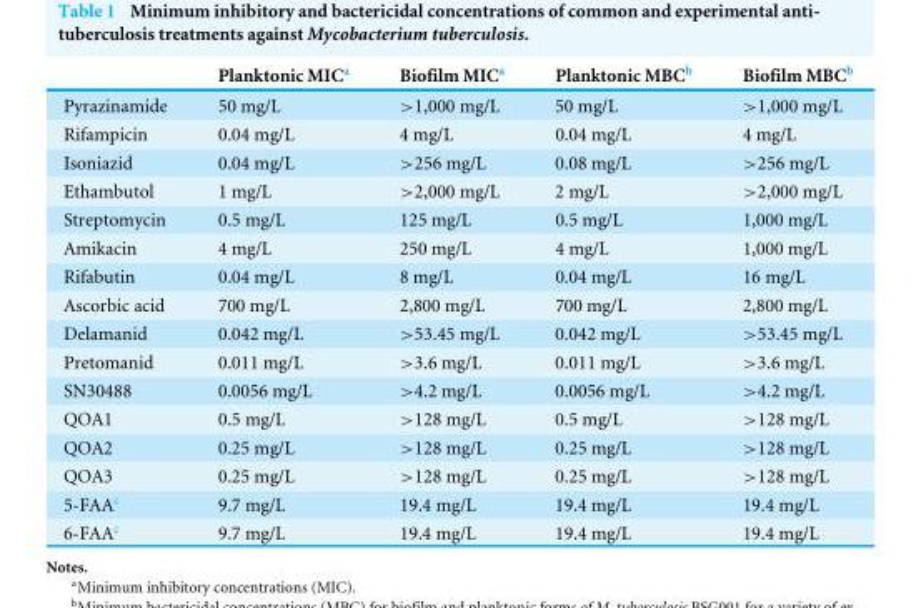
<table><thead><tr><td></td><td>Planktonic MIC<sup>a</sup></td><td>Biofilm MIC<sup>a</sup></td><td>Planktonic MBC<sup>b</sup></td><td>Biofilm MBC<sup>b</sup></td></tr></thead><tbody><tr><td>Pyrazinamide</td><td>50 mg/L</td><td>&gt;1,000 mg/L</td><td>50 mg/L</td><td>&gt;1,000 mg/L</td></tr><tr><td>Rifampicin</td><td>0.04 mg/L</td><td>4 mg/L</td><td>0.04 mg/L</td><td>4 mg/L</td></tr><tr><td>Isoniazid</td><td>0.04 mg/L</td><td>&gt;256 mg/L</td><td>0.08 mg/L</td><td>&gt;256 mg/L</td></tr><tr><td>Ethambutol</td><td>1 mg/L</td><td>&gt;2,000 mg/L</td><td>2 mg/L</td><td>&gt;2,000 mg/L</td></tr><tr><td>Streptomycin</td><td>0.5 mg/L</td><td>125 mg/L</td><td>0.5 mg/L</td><td>1,000 mg/L</td></tr><tr><td>Amikacin</td><td>4 mg/L</td><td>250 mg/L</td><td>4 mg/L</td><td>1,000 mg/L</td></tr><tr><td>Rifabutin</td><td>0.04 mg/L</td><td>8 mg/L</td><td>0.04 mg/L</td><td>16 mg/L</td></tr><tr><td>Ascorbic acid</td><td>700 mg/L</td><td>2,800 mg/L</td><td>700 mg/L</td><td>2,800 mg/L</td></tr><tr><td>Delamanid</td><td>0.042 mg/L</td><td>&gt;53.45 mg/L</td><td>0.042 mg/L</td><td>&gt;53.45 mg/L</td></tr><tr><td>Pretomanid</td><td>0.011 mg/L</td><td>&gt;3.6 mg/L</td><td>0.011 mg/L</td><td>&gt;3.6 mg/L</td></tr><tr><td>SN30488</td><td>0.0056 mg/L</td><td>&gt;4.2 mg/L</td><td>0.0056 mg/L</td><td>&gt;4.2 mg/L</td></tr><tr><td>QOA1</td><td>0.5 mg/L</td><td>&gt;128 mg/L</td><td>0.5 mg/L</td><td>&gt;128 mg/L</td></tr><tr><td>QOA2</td><td>0.25 mg/L</td><td>&gt;128 mg/L</td><td>0.25 mg/L</td><td>&gt;128 mg/L</td></tr><tr><td>QOA3</td><td>0.25 mg/L</td><td>&gt;128 mg/L</td><td>0.25 mg/L</td><td>&gt;128 mg/L</td></tr><tr><td>5-FAA<sup>c</sup></td><td>9.7 mg/L</td><td>19.4 mg/L</td><td>19.4 mg/L</td><td>19.4 mg/L</td></tr><tr><td>6-FAA<sup>c</sup></td><td>9.7 mg/L</td><td>19.4 mg/L</td><td>19.4 mg/L</td><td>19.4 mg/L</td></tr></tbody></table>